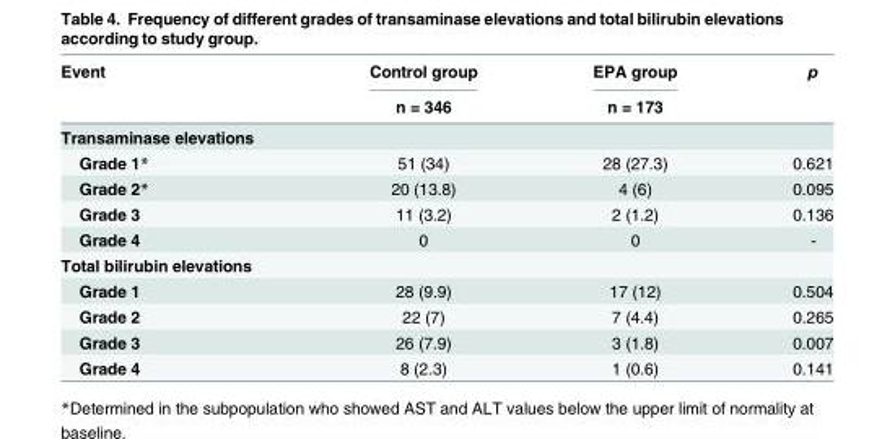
<table><thead><tr><td rowspan="2">Event</td><td rowspan="2">Control group n = 346</td><td rowspan="2">EPA group n = 173</td><td rowspan="2">p</td></tr><tr></tr></thead><tbody><tr><td colspan="4">Transaminase elevations</td></tr><tr><td>Grade 1*</td><td>51 (34)</td><td>28 (27.3)</td><td>0.621</td></tr><tr><td>Grade 2*</td><td>20 (13.8)</td><td>4 (6)</td><td>0.095</td></tr><tr><td>Grade 3</td><td>11 (3.2)</td><td>2 (1.2)</td><td>0.136</td></tr><tr><td>Grade 4</td><td>0</td><td>0</td><td>-</td></tr><tr><td colspan="4">Total bilirubin elevations</td></tr><tr><td>Grade 1</td><td>28 (9.9)</td><td>17 (12)</td><td>0.504</td></tr><tr><td>Grade 2</td><td>22 (7)</td><td>7 (4.4)</td><td>0.265</td></tr><tr><td>Grade 3</td><td>26 (7.9)</td><td>3 (1.8)</td><td>0.007</td></tr><tr><td>Grade 4</td><td>8 (2.3)</td><td>1 (0.6)</td><td>0.141</td></tr></tbody></table>